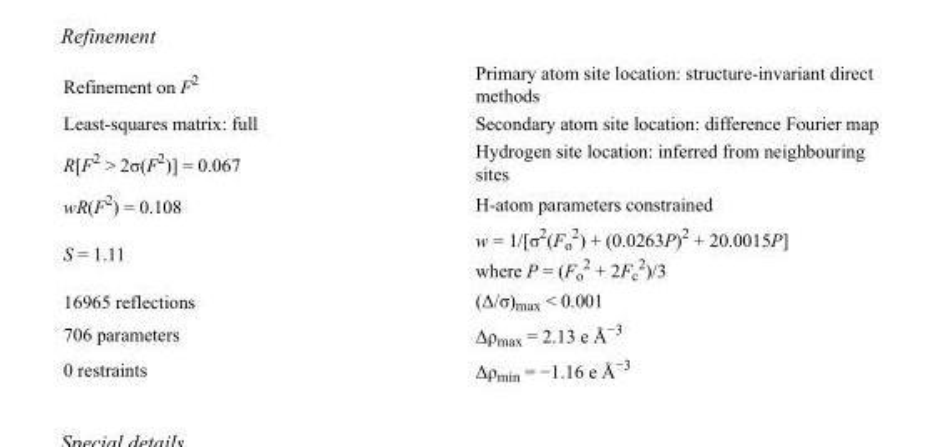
<table><tbody><tr><td>Refinement on F<sup>2</sup></td><td>Primary atom site location: structure-invariant direct methods</td></tr><tr><td>Least-squares matrix: full</td><td>Secondary atom site location: difference Fourier map</td></tr><tr><td>R[F<sup>2</sup> &gt; 2σ(F<sup>2</sup>)] = 0.067</td><td>Hydrogen site location: inferred from neighbouring sites</td></tr><tr><td>wR(F<sup>2</sup>) = 0.108</td><td>H-atom parameters constrained</td></tr><tr><td>S = 1.11</td><td>w = 1/[σ<sup>2</sup>(F<sub>o</sub> <sup>2</sup>) + (0.0263P)<sup>2</sup> + 20.0015P] where P = (F<sub>o</sub> <sup>2</sup> + 2F<sub>c</sub> <sup>2</sup>)/3</td></tr><tr><td>16965 reflections</td><td>(Δ/σ)<sub>max</sub> &lt; 0.001</td></tr><tr><td>706 parameters</td><td>Δρ<sub>max</sub> = 2.13 e Å<sup>−3</sup></td></tr><tr><td>0 restraints</td><td>Δρ<sub>min</sub> = −1.16 e Å<sup>−3</sup></td></tr></tbody></table>